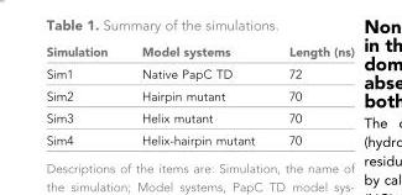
<table><thead><tr><td>Simulation</td><td>Model systems</td><td>Length (ns)</td></tr></thead><tbody><tr><td>Sim1</td><td>Native PapC TD</td><td>72</td></tr><tr><td>Sim2</td><td>Hairpin mutant</td><td>70</td></tr><tr><td>Sim3</td><td>Helix mutant</td><td>70</td></tr><tr><td>Sim4</td><td>Helix-hairpin mutant</td><td>70</td></tr></tbody></table>